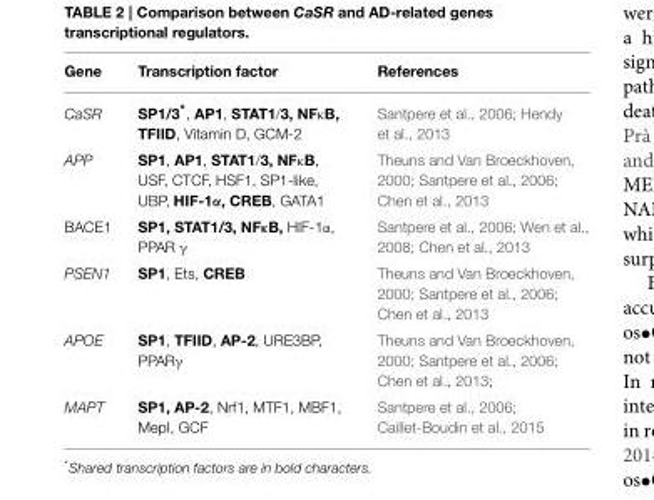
<table><thead><tr><td>Gene</td><td>Transcription factor</td><td>References</td></tr></thead><tbody><tr><td>CaSR</td><td>SP1/3*, AP1, STAT1/3, NFκB, TFIID, Vitamin D, GCM-2</td><td>Santpere et al., 2006; Hendy et al., 2013</td></tr><tr><td>APP</td><td>SP1, AP1, STAT1/3, NFκB, USF, CTCF, HSF1, SP1-like, UBP, HIF-1α, CREB, GATA1</td><td>Theuns and Van Broeckhoven, 2000; Santpere et al., 2006; Chen et al., 2013</td></tr><tr><td>BACE1</td><td>SP1, STAT1/3, NFκB, HIF-1α, PPAR γ</td><td>Santpere et al., 2006; Wen et al., 2008; Chen et al., 2013</td></tr><tr><td>PSEN1</td><td>SP1, Ets, CREB</td><td>Theuns and Van Broeckhoven, 2000; Santpere et al., 2006; Chen et al., 2013</td></tr><tr><td>APOE</td><td>SP1, TFIID, AP-2, URE3BP, PPARγ</td><td>Theuns and Van Broeckhoven, 2000; Santpere et al., 2006; Chen et al., 2013;</td></tr><tr><td>MAPT</td><td>SP1, AP-2, Nrf1, MTF1, MBF1, MepI, GCF</td><td>Santpere et al., 2006; Caillet-Boudin et al., 2015</td></tr></tbody></table>